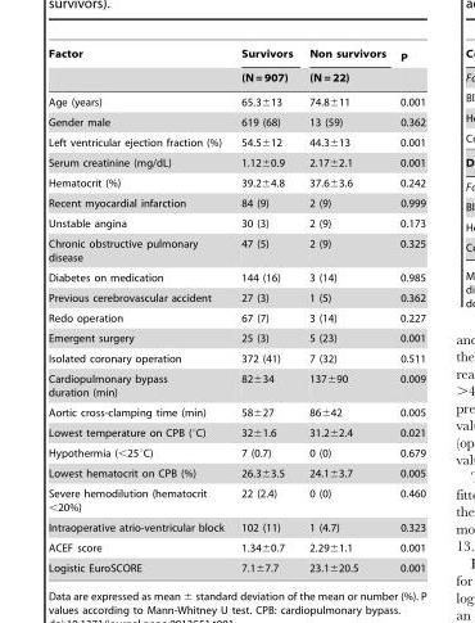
<table><thead><tr><td rowspan="2">Factor</td><td rowspan="2">Survivors (N = 907)</td><td rowspan="2">Non survivors (N = 22)</td><td rowspan="2">P</td></tr><tr></tr></thead><tbody><tr><td>Age (years)</td><td>65.3±13</td><td>74.8±11</td><td>0.001</td></tr><tr><td>Gender male</td><td>619 (68)</td><td>13 (59)</td><td>0.362</td></tr><tr><td>Left ventricular ejection fraction (%)</td><td>54.5±12</td><td>44.3±13</td><td>0.001</td></tr><tr><td>Serum creatinine (mg/dL)</td><td>1.12±0.9</td><td>2.17±2.1</td><td>0.001</td></tr><tr><td>Hematocrit (%)</td><td>39.2±4.8</td><td>37.6±3.6</td><td>0.242</td></tr><tr><td>Recent myocardial infarction</td><td>84 (9)</td><td>2 (9)</td><td>0.999</td></tr><tr><td>Unstable angina</td><td>30 (3)</td><td>2 (9)</td><td>0.173</td></tr><tr><td>Chronic obstructive pulmonary disease</td><td>47 (5)</td><td>2 (9)</td><td>0.325</td></tr><tr><td>Diabetes on medication</td><td>144 (16)</td><td>3 (14)</td><td>0.985</td></tr><tr><td>Previous cerebrovascular accident</td><td>27 (3)</td><td>1 (5)</td><td>0.362</td></tr><tr><td>Redo operation</td><td>67 (7)</td><td>3 (14)</td><td>0.227</td></tr><tr><td>Emergent surgery</td><td>25 (3)</td><td>5 (23)</td><td>0.001</td></tr><tr><td>Isolated coronary operation</td><td>372 (41)</td><td>7 (32)</td><td>0.511</td></tr><tr><td>Cardiopulmonary bypass duration (min)</td><td>82±34</td><td>137±90</td><td>0.009</td></tr><tr><td>Aortic cross-clamping time (min)</td><td>58±27</td><td>86±42</td><td>0.005</td></tr><tr><td>Lowest temperature on CPB (°C)</td><td>32±1.6</td><td>31.2±2.4</td><td>0.021</td></tr><tr><td>Hypothermia (&lt;25°C)</td><td>7 (0.7)</td><td>0 (0)</td><td>0.679</td></tr><tr><td>Lowest hematocrit on CPB (%)</td><td>26.3±3.5</td><td>24.1±3.7</td><td>0.005</td></tr><tr><td>Severe hemodilution (hematocrit &lt;20%)</td><td>22 (2.4)</td><td>0 (0)</td><td>0.460</td></tr><tr><td>Intraoperative atrio-ventricular block</td><td>102 (11)</td><td>1 (4.7)</td><td>0.323</td></tr><tr><td>ACEF score</td><td>1.34±0.7</td><td>2.29±1.1</td><td>0.001</td></tr><tr><td>Logistic EuroSCORE</td><td>7.1±7.7</td><td>23.1±20.5</td><td>0.001</td></tr></tbody></table>